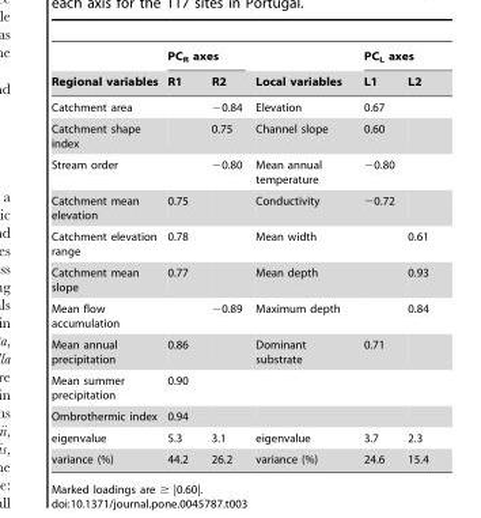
<table><thead><tr><td rowspan="2">Regional variables</td><td colspan="2">PC<sub>R</sub> axes</td><td rowspan="2">Local variables</td><td colspan="2">PC<sub>L</sub> axes</td></tr><tr><td>R1</td><td>R2</td><td>L1</td><td>L2</td></tr></thead><tbody><tr><td>Catchment area</td><td></td><td>−0.84</td><td>Elevation</td><td>0.67</td><td></td></tr><tr><td>Catchment shape index</td><td></td><td>0.75</td><td>Channel slope</td><td>0.60</td><td></td></tr><tr><td>Stream order</td><td></td><td>−0.80</td><td>Mean annual temperature</td><td>−0.80</td><td></td></tr><tr><td>Catchment mean elevation</td><td>0.75</td><td></td><td>Conductivity</td><td>−0.72</td><td></td></tr><tr><td>Catchment elevation range</td><td>0.78</td><td></td><td>Mean width</td><td></td><td>0.61</td></tr><tr><td>Catchment mean slope</td><td>0.77</td><td></td><td>Mean depth</td><td></td><td>0.93</td></tr><tr><td>Mean flow accumulation</td><td></td><td>−0.89</td><td>Maximum depth</td><td></td><td>0.84</td></tr><tr><td>Mean annual precipitation</td><td>0.86</td><td></td><td>Dominant substrate</td><td>0.71</td><td></td></tr><tr><td>Mean summer precipitation</td><td>0.90</td><td></td><td></td><td></td><td></td></tr><tr><td>Ombrothermic index</td><td>0.94</td><td></td><td></td><td></td><td></td></tr><tr><td>eigenvalue</td><td>5.3</td><td>3.1</td><td>eigenvalue</td><td>3.7</td><td>2.3</td></tr><tr><td>variance (%)</td><td>44.2</td><td>26.2</td><td>variance (%)</td><td>24.6</td><td>15.4</td></tr></tbody></table>